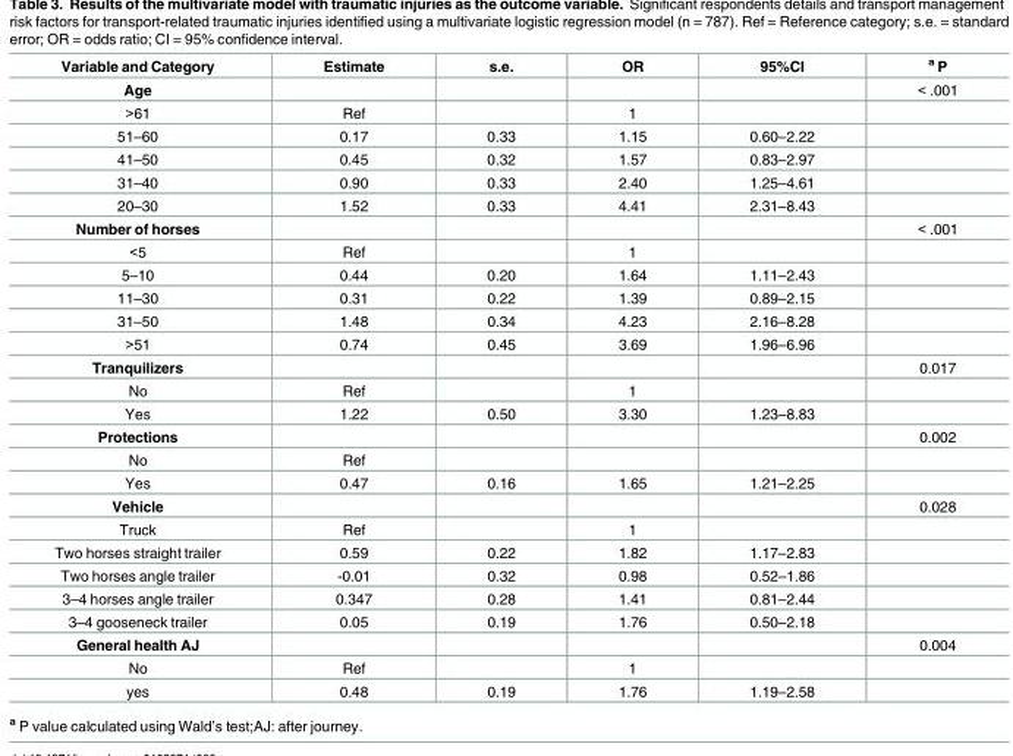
<table><thead><tr><td>Variable and Category</td><td>Estimate</td><td>s.e.</td><td>OR</td><td>95%CI</td><td><sup>a</sup> P</td></tr></thead><tbody><tr><td>Age</td><td></td><td></td><td></td><td></td><td>&lt; .001</td></tr><tr><td>&gt;61</td><td>Ref</td><td></td><td>1</td><td></td><td></td></tr><tr><td>51–60</td><td>0.17</td><td>0.33</td><td>1.15</td><td>0.60–2.22</td><td></td></tr><tr><td>41–50</td><td>0.45</td><td>0.32</td><td>1.57</td><td>0.83–2.97</td><td></td></tr><tr><td>31–40</td><td>0.90</td><td>0.33</td><td>2.40</td><td>1.25–4.61</td><td></td></tr><tr><td>20–30</td><td>1.52</td><td>0.33</td><td>4.41</td><td>2.31–8.43</td><td></td></tr><tr><td>Number of horses</td><td></td><td></td><td></td><td></td><td>&lt; .001</td></tr><tr><td>&lt;5</td><td>Ref</td><td></td><td>1</td><td></td><td></td></tr><tr><td>5–10</td><td>0.44</td><td>0.20</td><td>1.64</td><td>1.11–2.43</td><td></td></tr><tr><td>11–30</td><td>0.31</td><td>0.22</td><td>1.39</td><td>0.89–2.15</td><td></td></tr><tr><td>31–50</td><td>1.48</td><td>0.34</td><td>4.23</td><td>2.16–8.28</td><td></td></tr><tr><td>&gt;51</td><td>0.74</td><td>0.45</td><td>3.69</td><td>1.96–6.96</td><td></td></tr><tr><td>Tranquilizers</td><td></td><td></td><td></td><td></td><td>0.017</td></tr><tr><td>No</td><td>Ref</td><td></td><td>1</td><td></td><td></td></tr><tr><td>Yes</td><td>1.22</td><td>0.50</td><td>3.30</td><td>1.23–8.83</td><td></td></tr><tr><td>Protections</td><td></td><td></td><td></td><td></td><td>0.002</td></tr><tr><td>No</td><td>Ref</td><td></td><td></td><td></td><td></td></tr><tr><td>Yes</td><td>0.47</td><td>0.16</td><td>1.65</td><td>1.21–2.25</td><td></td></tr><tr><td>Vehicle</td><td></td><td></td><td></td><td></td><td>0.028</td></tr><tr><td>Truck</td><td>Ref</td><td></td><td>1</td><td></td><td></td></tr><tr><td>Two horses straight trailer</td><td>0.59</td><td>0.22</td><td>1.82</td><td>1.17–2.83</td><td></td></tr><tr><td>Two horses angle trailer</td><td>-0.01</td><td>0.32</td><td>0.98</td><td>0.52–1.86</td><td></td></tr><tr><td>3–4 horses angle trailer</td><td>0.347</td><td>0.28</td><td>1.41</td><td>0.81–2.44</td><td></td></tr><tr><td>3–4 gooseneck trailer</td><td>0.05</td><td>0.19</td><td>1.76</td><td>0.50–2.18</td><td></td></tr><tr><td>General health AJ</td><td></td><td></td><td></td><td></td><td>0.004</td></tr><tr><td>No</td><td>Ref</td><td></td><td>1</td><td></td><td></td></tr><tr><td>yes</td><td>0.48</td><td>0.19</td><td>1.76</td><td>1.19–2.58</td><td></td></tr></tbody></table>